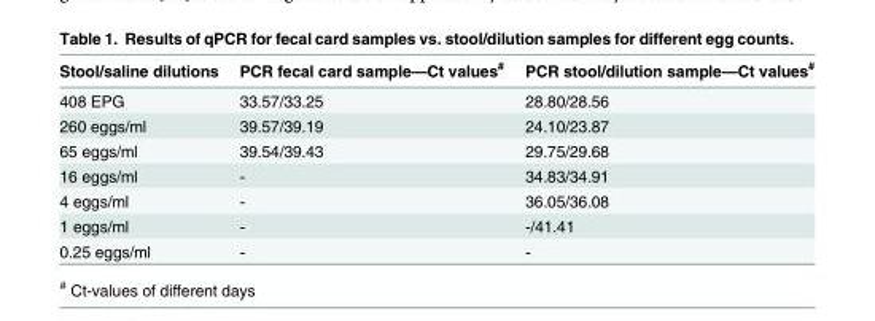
<table><thead><tr><td>Stool/saline dilutions</td><td>PCR fecal card sample—Ct values<sup>#</sup></td><td>PCR stool/dilution sample—Ct values<sup>#</sup></td></tr></thead><tbody><tr><td>408 EPG</td><td>33.57/33.25</td><td>28.80/28.56</td></tr><tr><td>260 eggs/ml</td><td>39.57/39.19</td><td>24.10/23.87</td></tr><tr><td>65 eggs/ml</td><td>39.54/39.43</td><td>29.75/29.68</td></tr><tr><td>16 eggs/ml</td><td>-</td><td>34.83/34.91</td></tr><tr><td>4 eggs/ml</td><td>-</td><td>36.05/36.08</td></tr><tr><td>1 eggs/ml</td><td>-</td><td>-/41.41</td></tr><tr><td>0.25 eggs/ml</td><td>-</td><td>-</td></tr></tbody></table>